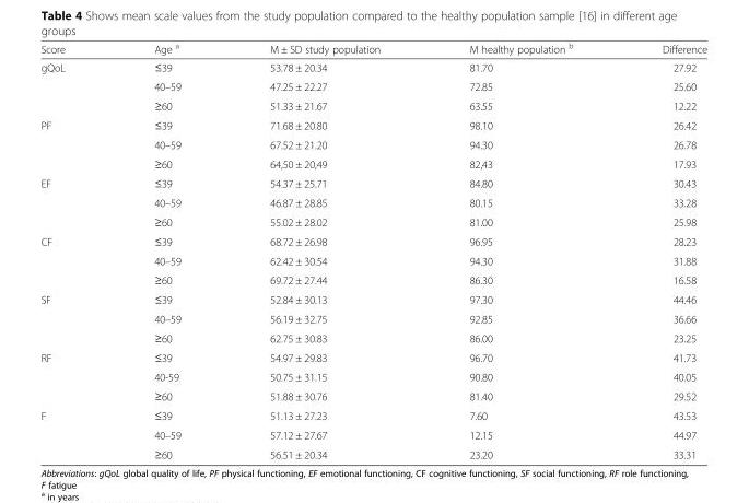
<table><thead><tr><td>Score</td><td>Age <sup>a</sup></td><td>M ± SD study population</td><td>M healthy population <sup>b</sup></td><td>Difference</td></tr></thead><tbody><tr><td rowspan="3">gQoL</td><td>≤39</td><td>53.78 ± 20.34</td><td>81.70</td><td>27.92</td></tr><tr><td>40–59</td><td>47.25 ± 22.27</td><td>72.85</td><td>25.60</td></tr><tr><td>≥60</td><td>51.33 ± 21.67</td><td>63.55</td><td>12.22</td></tr><tr><td rowspan="3">PF</td><td>≤39</td><td>71.68 ± 20.80</td><td>98.10</td><td>26.42</td></tr><tr><td>40–59</td><td>67.52 ± 21.20</td><td>94.30</td><td>26.78</td></tr><tr><td>≥60</td><td>64,50 ± 20,49</td><td>82,43</td><td>17.93</td></tr><tr><td rowspan="3">EF</td><td>≤39</td><td>54.37 ± 25.71</td><td>84.80</td><td>30.43</td></tr><tr><td>40–59</td><td>46.87 ± 28.85</td><td>80.15</td><td>33.28</td></tr><tr><td>≥60</td><td>55.02 ± 28.02</td><td>81.00</td><td>25.98</td></tr><tr><td rowspan="3">CF</td><td>≤39</td><td>68.72 ± 26.98</td><td>96.95</td><td>28.23</td></tr><tr><td>40–59</td><td>62.42 ± 30.54</td><td>94.30</td><td>31.88</td></tr><tr><td>≥60</td><td>69.72 ± 27.44</td><td>86.30</td><td>16.58</td></tr><tr><td rowspan="3">SF</td><td>≤39</td><td>52.84 ± 30.13</td><td>97.30</td><td>44.46</td></tr><tr><td>40–59</td><td>56.19 ± 32.75</td><td>92.85</td><td>36.66</td></tr><tr><td>≥60</td><td>62.75 ± 30.83</td><td>86.00</td><td>23.25</td></tr><tr><td rowspan="3">RF</td><td>≤39</td><td>54.97 ± 29.83</td><td>96.70</td><td>41.73</td></tr><tr><td>40-59</td><td>50.75 ± 31.15</td><td>90.80</td><td>40.05</td></tr><tr><td>≥60</td><td>51.88 ± 30.76</td><td>81.40</td><td>29.52</td></tr><tr><td rowspan="3">F</td><td>≤39</td><td>51.13 ± 27.23</td><td>7.60</td><td>43.53</td></tr><tr><td>40–59</td><td>57.12 ± 27.67</td><td>12.15</td><td>44.97</td></tr><tr><td>≥60</td><td>56.51 ± 20.34</td><td>23.20</td><td>33.31</td></tr></tbody></table>